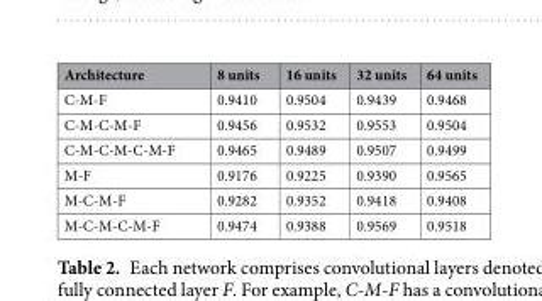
<table><thead><tr><td>Architecture</td><td>8 units</td><td>16 units</td><td>32 units</td><td>64 units</td></tr></thead><tbody><tr><td>C-M-F</td><td>0.9410</td><td>0.9504</td><td>0.9439</td><td>0.9468</td></tr><tr><td>C-M-C-M-F</td><td>0.9456</td><td>0.9532</td><td>0.9553</td><td>0.9504</td></tr><tr><td>C-M-C-M-C-M-F</td><td>0.9465</td><td>0.9489</td><td>0.9507</td><td>0.9499</td></tr><tr><td>M-F</td><td>0.9176</td><td>0.9225</td><td>0.9390</td><td>0.9565</td></tr><tr><td>M-C-M-F</td><td>0.9282</td><td>0.9352</td><td>0.9418</td><td>0.9408</td></tr><tr><td>M-C-M-C-M-F</td><td>0.9474</td><td>0.9388</td><td>0.9569</td><td>0.9518</td></tr></tbody></table>